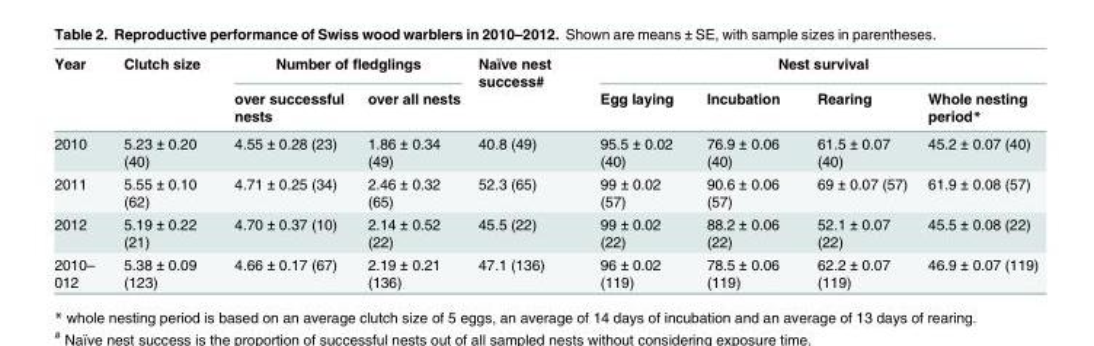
<table><thead><tr><td rowspan="2">Year</td><td rowspan="2">Clutch size</td><td colspan="2">Number of fledglings</td><td rowspan="2">Naïve nest success#</td><td colspan="4">Nest survival</td></tr><tr><td>over successful nests</td><td>over all nests</td><td>Egg laying</td><td>Incubation</td><td>Rearing</td><td>Whole nesting period*</td></tr></thead><tbody><tr><td>2010</td><td>5.23 ± 0.20 (40)</td><td>4.55 ± 0.28 (23)</td><td>1.86 ± 0.34 (49)</td><td>40.8 (49)</td><td>95.5 ± 0.02 (40)</td><td>76.9 ± 0.06 (40)</td><td>61.5 ± 0.07 (40)</td><td>45.2 ± 0.07 (40)</td></tr><tr><td>2011</td><td>5.55 ± 0.10 (62)</td><td>4.71 ± 0.25 (34)</td><td>2.46 ± 0.32 (65)</td><td>52.3 (65)</td><td>99 ± 0.02 (57)</td><td>90.6 ± 0.06 (57)</td><td>69 ± 0.07 (57)</td><td>61.9 ± 0.08 (57)</td></tr><tr><td>2012</td><td>5.19 ± 0.22 (21)</td><td>4.70 ± 0.37 (10)</td><td>2.14 ± 0.52 (22)</td><td>45.5 (22)</td><td>99 ± 0.02 (22)</td><td>88.2 ± 0.06 (22)</td><td>52.1 ± 0.07 (22)</td><td>45.5 ± 0.08 (22)</td></tr><tr><td>2010– 012</td><td>5.38 ± 0.09 (123)</td><td>4.66 ± 0.17 (67)</td><td>2.19 ± 0.21 (136)</td><td>47.1 (136)</td><td>96 ± 0.02 (119)</td><td>78.5 ± 0.06 (119)</td><td>62.2 ± 0.07 (119)</td><td>46.9 ± 0.07 (119)</td></tr></tbody></table>